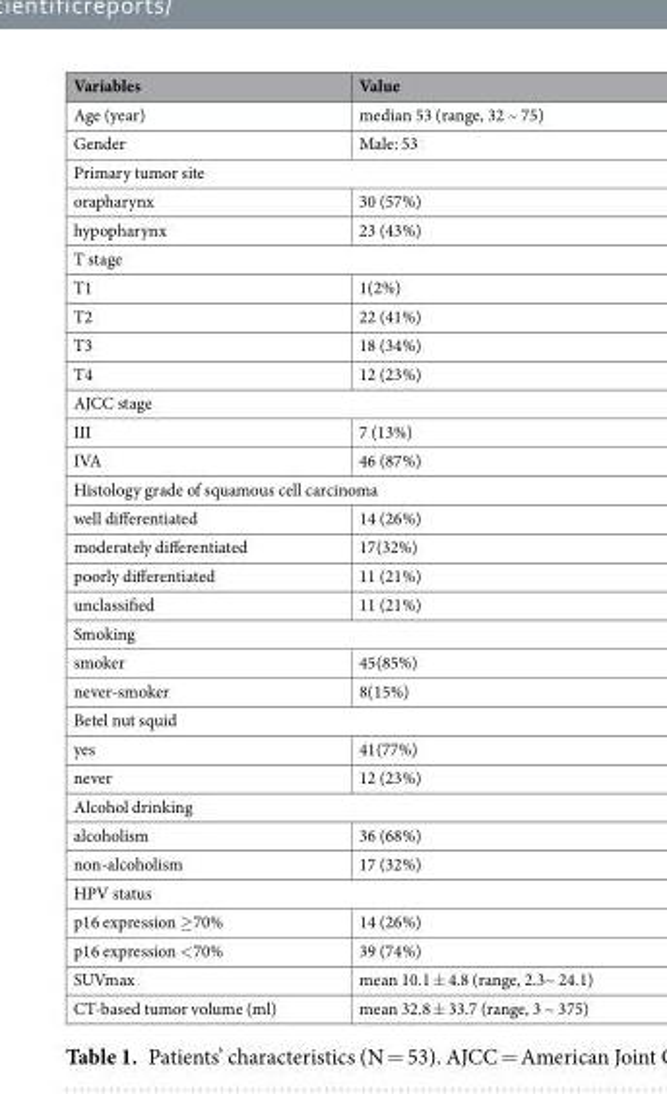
<table><thead><tr><td>Variables</td><td>Value</td></tr></thead><tbody><tr><td>Age (year)</td><td>median 53 (range, 32 ~ 75)</td></tr><tr><td>Gender</td><td>Male: 53</td></tr><tr><td colspan="2">Primary tumor site</td></tr><tr><td>orapharynx</td><td>30 (57%)</td></tr><tr><td>hypopharynx</td><td>23 (43%)</td></tr><tr><td colspan="2">T stage</td></tr><tr><td>T1</td><td>1(2%)</td></tr><tr><td>T2</td><td>22 (41%)</td></tr><tr><td>T3</td><td>18 (34%)</td></tr><tr><td>T4</td><td>12 (23%)</td></tr><tr><td colspan="2">AJCC stage</td></tr><tr><td>III</td><td>7 (13%)</td></tr><tr><td>IVA</td><td>46 (87%)</td></tr><tr><td colspan="2">Histology grade of squamous cell carcinoma</td></tr><tr><td>well differentiated</td><td>14 (26%)</td></tr><tr><td>moderately differentiated</td><td>17(32%)</td></tr><tr><td>poorly differentiated</td><td>11 (21%)</td></tr><tr><td>unclassified</td><td>11 (21%)</td></tr><tr><td colspan="2">Smoking</td></tr><tr><td>smoker</td><td>45(85%)</td></tr><tr><td>never-smoker</td><td>8(15%)</td></tr><tr><td colspan="2">Betel nut squid</td></tr><tr><td>yes</td><td>41(77%)</td></tr><tr><td>never</td><td>12 (23%)</td></tr><tr><td colspan="2">Alcohol drinking</td></tr><tr><td>alcoholism</td><td>36 (68%)</td></tr><tr><td>non-alcoholism</td><td>17 (32%)</td></tr><tr><td colspan="2">HPV status</td></tr><tr><td>p16 expression ≥70%</td><td>14 (26%)</td></tr><tr><td>p16 expression &lt;70%</td><td>39 (74%)</td></tr><tr><td>SUVmax</td><td>mean 10.1 ± 4.8 (range, 2.3~ 24.1)</td></tr><tr><td>CT-based tumor volume (ml)</td><td>mean 32.8 ± 33.7 (range, 3 ~ 375)</td></tr></tbody></table>